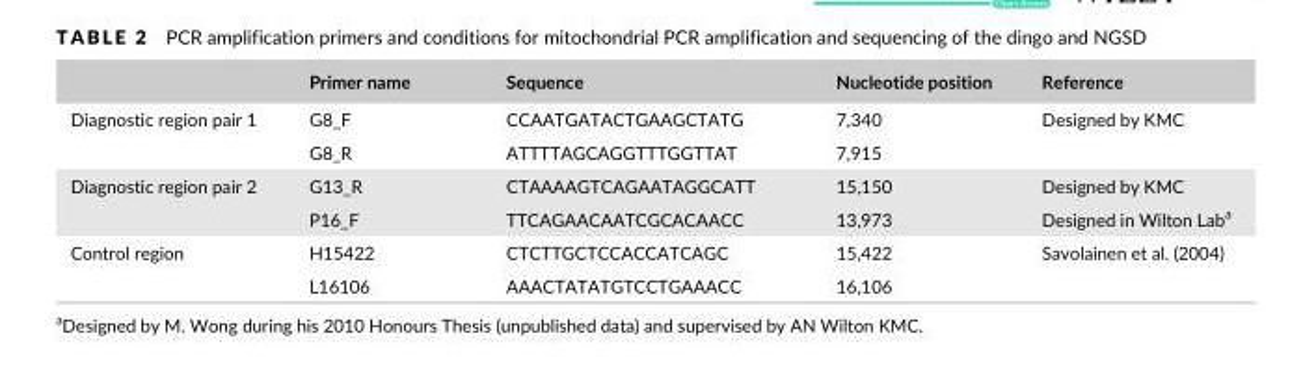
<table><thead><tr><td></td><td>Primer name</td><td>Sequence</td><td>Nucleotide position</td><td>Reference</td></tr></thead><tbody><tr><td rowspan="2">Diagnostic region pair 1</td><td>G8_F</td><td>CCAATGATACTGAAGCTATG</td><td>7,340</td><td rowspan="2">Designed by KMC</td></tr><tr><td>G8_R</td><td>ATTTTAGCAGGTTTGGTTAT</td><td>7,915</td></tr><tr><td rowspan="2">Diagnostic region pair 2</td><td>G13_R</td><td>CTAAAAGTCAGAATAGGCATT</td><td>15,150</td><td>Designed by KMC</td></tr><tr><td>P16_F</td><td>TTCAGAACAATCGCACAACC</td><td>13,973</td><td>Designed in Wilton Lab<sup>a</sup></td></tr><tr><td rowspan="2">Control region</td><td>H15422</td><td>CTCTTGCTCCACCATCAGC</td><td>15,422</td><td rowspan="2">Savolainen et al. (2004)</td></tr><tr><td>L16106</td><td>AAACTATATGTCCTGAAACC</td><td>16,106</td></tr></tbody></table>